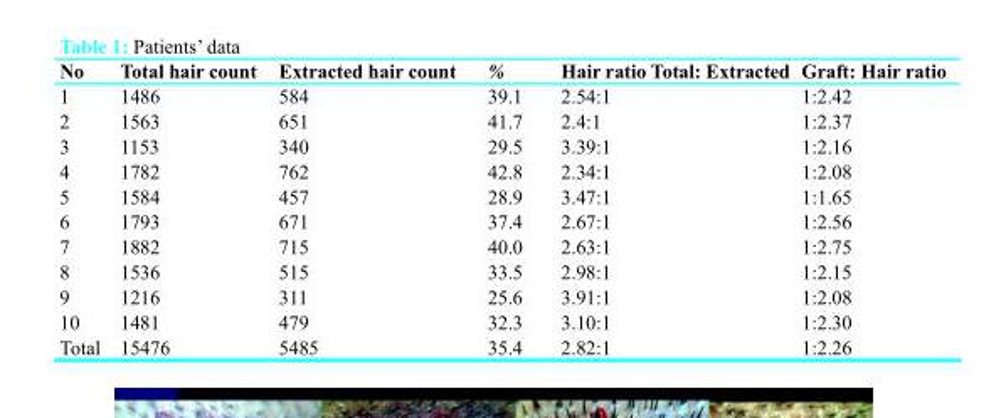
<table><thead><tr><td>No</td><td>Total hair count</td><td>Extracted hair count</td><td>%</td><td>Hair ratio Total: Extracted</td><td>Graft: Hair ratio</td></tr></thead><tbody><tr><td>1</td><td>1486</td><td>584</td><td>39.1</td><td>2.54:1</td><td>1:2.42</td></tr><tr><td>2</td><td>1563</td><td>651</td><td>41.7</td><td>2.4:1</td><td>1:2.37</td></tr><tr><td>3</td><td>1153</td><td>340</td><td>29.5</td><td>3.39:1</td><td>1:2.16</td></tr><tr><td>4</td><td>1782</td><td>762</td><td>42.8</td><td>2.34:1</td><td>1:2.08</td></tr><tr><td>5</td><td>1584</td><td>457</td><td>28.9</td><td>3.47:1</td><td>1:1.65</td></tr><tr><td>6</td><td>1793</td><td>671</td><td>37.4</td><td>2.67:1</td><td>1:2.56</td></tr><tr><td>7</td><td>1882</td><td>715</td><td>40.0</td><td>2.63:1</td><td>1:2.75</td></tr><tr><td>8</td><td>1536</td><td>515</td><td>33.5</td><td>2.98:1</td><td>1:2.15</td></tr><tr><td>9</td><td>1216</td><td>311</td><td>25.6</td><td>3.91:1</td><td>1:2.08</td></tr><tr><td>10</td><td>1481</td><td>479</td><td>32.3</td><td>3.10:1</td><td>1:2.30</td></tr><tr><td>Total</td><td>15476</td><td>5485</td><td>35.4</td><td>2.82:1</td><td>1:2.26</td></tr></tbody></table>